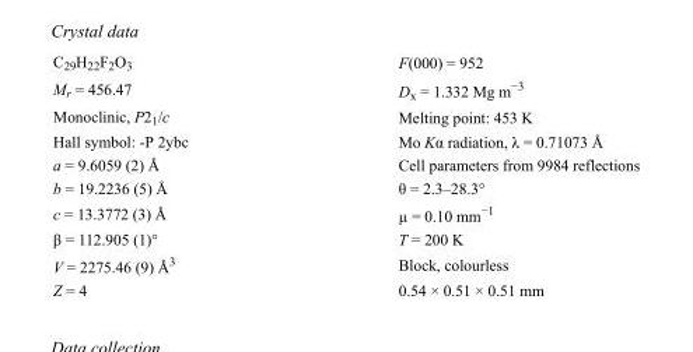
<table><tbody><tr><td>C<sub>29</sub>H<sub>22</sub>F<sub>2</sub>O<sub>3</sub></td><td>F(000) = 952</td></tr><tr><td>M<sub>r</sub> = 456.47</td><td>D<sub>x</sub> = 1.332 Mg m<sup>−3</sup></td></tr><tr><td>Monoclinic, P2<sub>1</sub>/c</td><td>Melting point: 453 K</td></tr><tr><td>Hall symbol: -P 2ybc</td><td>Mo Kα radiation, λ = 0.71073 Å</td></tr><tr><td>a = 9.6059 (2) Å</td><td>Cell parameters from 9984 reflections</td></tr><tr><td>b = 19.2236 (5) Å</td><td>θ = 2.3–28.3°</td></tr><tr><td>c = 13.3772 (3) Å</td><td>µ = 0.10 mm<sup>−1</sup></td></tr><tr><td>β = 112.905 (1)°</td><td>T = 200 K</td></tr><tr><td>V = 2275.46 (9) Å<sup>3</sup></td><td>Block, colourless</td></tr><tr><td>Z = 4</td><td>0.54 × 0.51 × 0.51 mm</td></tr></tbody></table>